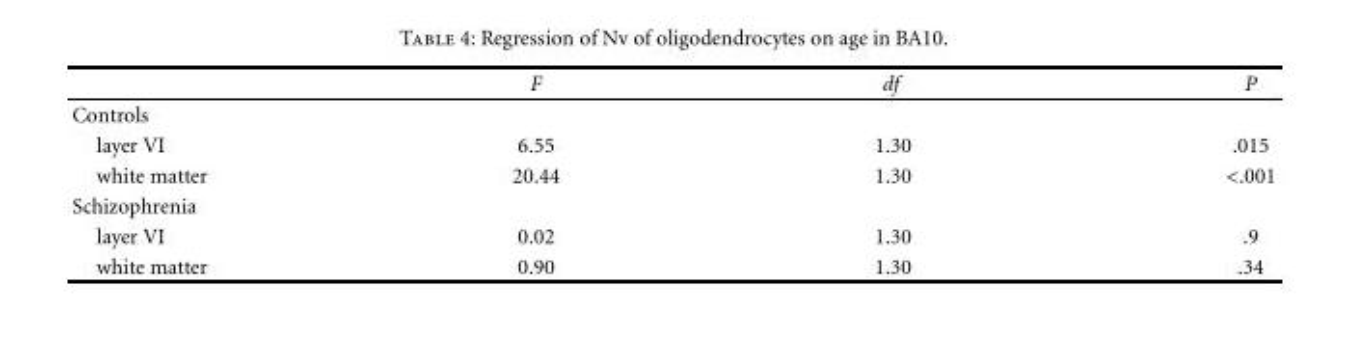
<table><thead><tr><td></td><td>F</td><td>df</td><td>P</td></tr></thead><tbody><tr><td colspan="4">Controls</td></tr><tr><td>layer VI</td><td>6.55</td><td>1.30</td><td>.015</td></tr><tr><td>white matter</td><td>20.44</td><td>1.30</td><td>&lt;.001</td></tr><tr><td colspan="4">Schizophrenia</td></tr><tr><td>layer VI</td><td>0.02</td><td>1.30</td><td>.9</td></tr><tr><td>white matter</td><td>0.90</td><td>1.30</td><td>.34</td></tr></tbody></table>